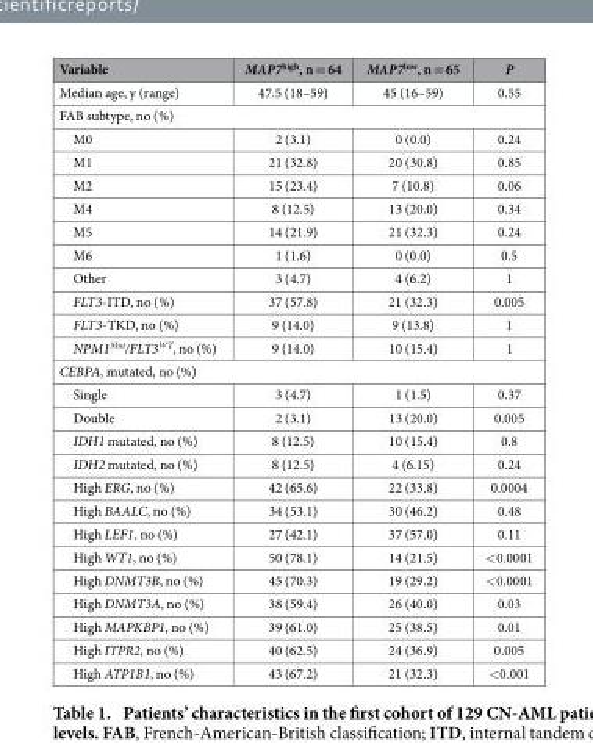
<table><thead><tr><td>Variable</td><td>MAP7<sup>high</sup>, n = 64</td><td>MAP7<sup>low</sup>, n = 65</td><td>P</td></tr></thead><tbody><tr><td>Median age, y (range)</td><td>47.5 (18–59)</td><td>45 (16–59)</td><td>0.55</td></tr><tr><td colspan="4">FAB subtype, no (%)</td></tr><tr><td>M0</td><td>2 (3.1)</td><td>0 (0.0)</td><td>0.24</td></tr><tr><td>M1</td><td>21 (32.8)</td><td>20 (30.8)</td><td>0.85</td></tr><tr><td>M2</td><td>15 (23.4)</td><td>7 (10.8)</td><td>0.06</td></tr><tr><td>M4</td><td>8 (12.5)</td><td>13 (20.0)</td><td>0.34</td></tr><tr><td>M5</td><td>14 (21.9)</td><td>21 (32.3)</td><td>0.24</td></tr><tr><td>M6</td><td>1 (1.6)</td><td>0 (0.0)</td><td>0.5</td></tr><tr><td>Other</td><td>3 (4.7)</td><td>4 (6.2)</td><td>1</td></tr><tr><td>FLT3-ITD, no (%)</td><td>37 (57.8)</td><td>21 (32.3)</td><td>0.005</td></tr><tr><td>FLT3-TKD, no (%)</td><td>9 (14.0)</td><td>9 (13.8)</td><td>1</td></tr><tr><td>NPM1<sup>Mut</sup>/FLT3<sup>WT</sup>, no (%)</td><td>9 (14.0)</td><td>10 (15.4)</td><td>1</td></tr><tr><td colspan="4">CEBPA, mutated, no (%)</td></tr><tr><td>Single</td><td>3 (4.7)</td><td>1 (1.5)</td><td>0.37</td></tr><tr><td>Double</td><td>2 (3.1)</td><td>13 (20.0)</td><td>0.005</td></tr><tr><td>IDH1 mutated, no (%)</td><td>8 (12.5)</td><td>10 (15.4)</td><td>0.8</td></tr><tr><td>IDH2 mutated, no (%)</td><td>8 (12.5)</td><td>4 (6.15)</td><td>0.24</td></tr><tr><td>High ERG, no (%)</td><td>42 (65.6)</td><td>22 (33.8)</td><td>0.0004</td></tr><tr><td>High BAALC, no (%)</td><td>34 (53.1)</td><td>30 (46.2)</td><td>0.48</td></tr><tr><td>High LEF1, no (%)</td><td>27 (42.1)</td><td>37 (57.0)</td><td>0.11</td></tr><tr><td>High WT1, no (%)</td><td>50 (78.1)</td><td>14 (21.5)</td><td>&lt; 0.0001</td></tr><tr><td>High DNMT3B, no (%)</td><td>45 (70.3)</td><td>19 (29.2)</td><td>&lt; 0.0001</td></tr><tr><td>High DNMT3A, no (%)</td><td>38 (59.4)</td><td>26 (40.0)</td><td>0.03</td></tr><tr><td>High MAPKBP1, no (%)</td><td>39 (61.0)</td><td>25 (38.5)</td><td>0.01</td></tr><tr><td>High ITPR2, no (%)</td><td>40 (62.5)</td><td>24 (36.9)</td><td>0.005</td></tr><tr><td>High ATP1B1, no (%)</td><td>43 (67.2)</td><td>21 (32.3)</td><td>&lt; 0.001</td></tr></tbody></table>